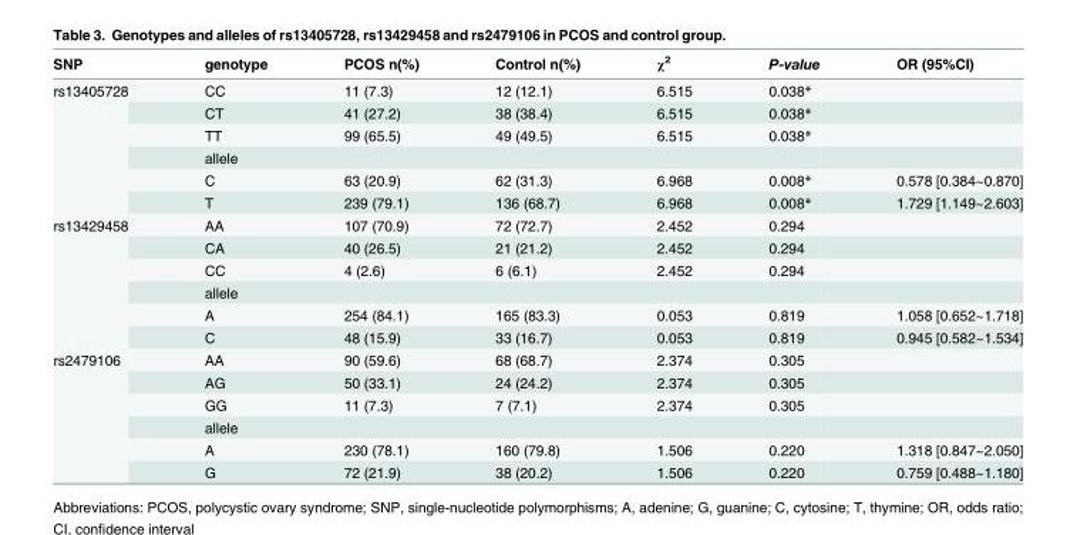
<table><thead><tr><td>SNP</td><td>genotype</td><td>PCOS n(%)</td><td>Control n(%)</td><td>χ<sup>2</sup></td><td>P-value</td><td>OR (95%CI)</td></tr></thead><tbody><tr><td rowspan="6">rs13405728</td><td>CC</td><td>11 (7.3)</td><td>12 (12.1)</td><td>6.515</td><td>0.038*</td><td></td></tr><tr><td>CT</td><td>41 (27.2)</td><td>38 (38.4)</td><td>6.515</td><td>0.038*</td><td></td></tr><tr><td>TT</td><td>99 (65.5)</td><td>49 (49.5)</td><td>6.515</td><td>0.038*</td><td></td></tr><tr><td>allele</td><td></td><td></td><td></td><td></td><td></td></tr><tr><td>C</td><td>63 (20.9)</td><td>62 (31.3)</td><td>6.968</td><td>0.008*</td><td>0.578 [0.384~0.870]</td></tr><tr><td>T</td><td>239 (79.1)</td><td>136 (68.7)</td><td>6.968</td><td>0.008*</td><td>1.729 [1.149~2.603]</td></tr><tr><td rowspan="6">rs13429458</td><td>AA</td><td>107 (70.9)</td><td>72 (72.7)</td><td>2.452</td><td>0.294</td><td></td></tr><tr><td>CA</td><td>40 (26.5)</td><td>21 (21.2)</td><td>2.452</td><td>0.294</td><td></td></tr><tr><td>CC</td><td>4 (2.6)</td><td>6 (6.1)</td><td>2.452</td><td>0.294</td><td></td></tr><tr><td>allele</td><td></td><td></td><td></td><td></td><td></td></tr><tr><td>A</td><td>254 (84.1)</td><td>165 (83.3)</td><td>0.053</td><td>0.819</td><td>1.058 [0.652~1.718]</td></tr><tr><td>C</td><td>48 (15.9)</td><td>33 (16.7)</td><td>0.053</td><td>0.819</td><td>0.945 [0.582~1.534]</td></tr><tr><td rowspan="6">rs2479106</td><td>AA</td><td>90 (59.6)</td><td>68 (68.7)</td><td>2.374</td><td>0.305</td><td></td></tr><tr><td>AG</td><td>50 (33.1)</td><td>24 (24.2)</td><td>2.374</td><td>0.305</td><td></td></tr><tr><td>GG</td><td>11 (7.3)</td><td>7 (7.1)</td><td>2.374</td><td>0.305</td><td></td></tr><tr><td>allele</td><td></td><td></td><td></td><td></td><td></td></tr><tr><td>A</td><td>230 (78.1)</td><td>160 (79.8)</td><td>1.506</td><td>0.220</td><td>1.318 [0.847~2.050]</td></tr><tr><td>G</td><td>72 (21.9)</td><td>38 (20.2)</td><td>1.506</td><td>0.220</td><td>0.759 [0.488~1.180]</td></tr></tbody></table>